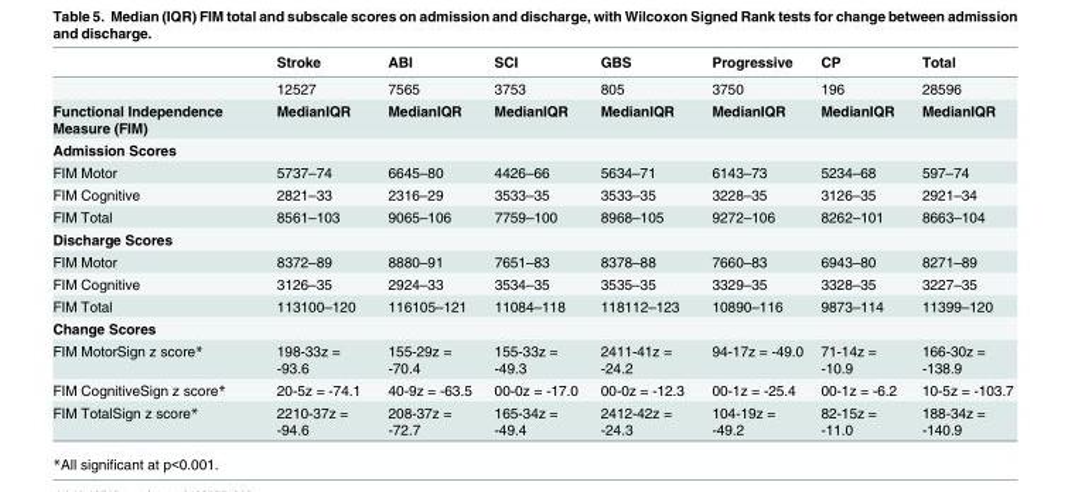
<table><thead><tr><td></td><td>Stroke</td><td>ABI</td><td>SCI</td><td>GBS</td><td>Progressive</td><td>CP</td><td>Total</td></tr></thead><tbody><tr><td></td><td>12527</td><td>7565</td><td>3753</td><td>805</td><td>3750</td><td>196</td><td>28596</td></tr><tr><td>Functional Independence Measure (FIM)</td><td>MedianIQR</td><td>MedianIQR</td><td>MedianIQR</td><td>MedianIQR</td><td>MedianIQR</td><td>MedianIQR</td><td>MedianIQR</td></tr><tr><td colspan="8">Admission Scores</td></tr><tr><td>FIM Motor</td><td>5737–74</td><td>6645–80</td><td>4426–66</td><td>5634–71</td><td>6143–73</td><td>5234–68</td><td>597–74</td></tr><tr><td>FIM Cognitive</td><td>2821–33</td><td>2316–29</td><td>3533–35</td><td>3533–35</td><td>3228–35</td><td>3126–35</td><td>2921–34</td></tr><tr><td>FIM Total</td><td>8561–103</td><td>9065–106</td><td>7759–100</td><td>8968–105</td><td>9272–106</td><td>8262–101</td><td>8663–104</td></tr><tr><td colspan="8">Discharge Scores</td></tr><tr><td>FIM Motor</td><td>8372–89</td><td>8880–91</td><td>7651–83</td><td>8378–88</td><td>7660–83</td><td>6943–80</td><td>8271–89</td></tr><tr><td>FIM Cognitive</td><td>3126–35</td><td>2924–33</td><td>3534–35</td><td>3535–35</td><td>3329–35</td><td>3328–35</td><td>3227–35</td></tr><tr><td>FIM Total</td><td>113100–120</td><td>116105–121</td><td>11084–118</td><td>118112–123</td><td>10890–116</td><td>9873–114</td><td>11399–120</td></tr><tr><td colspan="8">Change Scores</td></tr><tr><td>FIM MotorSign z score*</td><td>198-33z = -93.6</td><td>155-29z = -70.4</td><td>155-33z = -49.3</td><td>2411-41z = -24.2</td><td>94-17z = -49.0</td><td>71-14z = -10.9</td><td>166-30z = -138.9</td></tr><tr><td>FIM CognitiveSign z score*</td><td>20-5z = -74.1</td><td>40-9z = -63.5</td><td>00-0z = -17.0</td><td>00-0z = -12.3</td><td>00-1z = -25.4</td><td>00-1z = -6.2</td><td>10-5z = -103.7</td></tr><tr><td>FIM TotalSign z score*</td><td>2210-37z = -94.6</td><td>208-37z = -72.7</td><td>165-34z = -49.4</td><td>2412-42z = -24.3</td><td>104-19z = -49.2</td><td>82-15z = -11.0</td><td>188-34z = -140.9</td></tr></tbody></table>